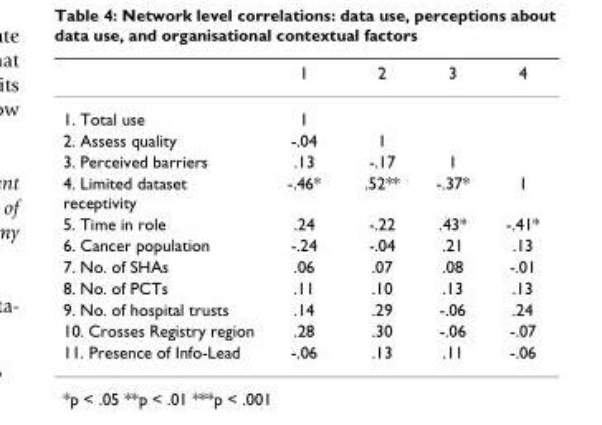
<table><thead><tr><td></td><td>1</td><td>2</td><td>3</td><td>4</td></tr></thead><tbody><tr><td>1. Total use</td><td>1</td><td></td><td></td><td></td></tr><tr><td>2. Assess quality</td><td>-.04</td><td>1</td><td></td><td></td></tr><tr><td>3. Perceived barriers</td><td>.13</td><td>-.17</td><td>1</td><td></td></tr><tr><td>4. Limited dataset receptivity</td><td>-.46*</td><td>.52**</td><td>-.37*</td><td>1</td></tr><tr><td>5. Time in role</td><td>.24</td><td>-.22</td><td>.43*</td><td>-.41*</td></tr><tr><td>6. Cancer population</td><td>-.24</td><td>-.04</td><td>.21</td><td>.13</td></tr><tr><td>7. No. of SHAs</td><td>.06</td><td>.07</td><td>.08</td><td>-.01</td></tr><tr><td>8. No. of PCTs</td><td>.11</td><td>.10</td><td>.13</td><td>.13</td></tr><tr><td>9. No. of hospital trusts</td><td>.14</td><td>.29</td><td>-.06</td><td>.24</td></tr><tr><td>10. Crosses Registry region</td><td>.28</td><td>.30</td><td>-.06</td><td>-.07</td></tr><tr><td>11. Presence of Info-Lead</td><td>-.06</td><td>.13</td><td>.11</td><td>-.06</td></tr></tbody></table>